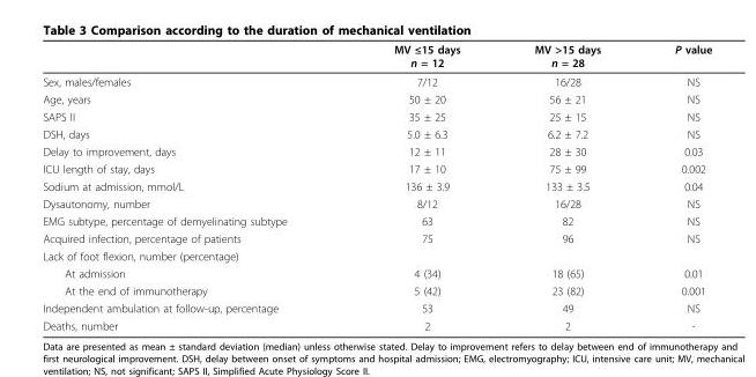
<table><thead><tr><td></td><td>MV ≤15 days n = 12</td><td>MV &gt;15 days n = 28</td><td>P value</td></tr></thead><tbody><tr><td>Sex, males/females</td><td>7/12</td><td>16/28</td><td>NS</td></tr><tr><td>Age, years</td><td>50 ± 20</td><td>56 ± 21</td><td>NS</td></tr><tr><td>SAPS II</td><td>35 ± 25</td><td>25 ± 15</td><td>NS</td></tr><tr><td>DSH, days</td><td>5.0 ± 6.3</td><td>6.2 ± 7.2</td><td>NS</td></tr><tr><td>Delay to improvement, days</td><td>12 ± 11</td><td>28 ± 30</td><td>0.03</td></tr><tr><td>ICU length of stay, days</td><td>17 ± 10</td><td>75 ± 99</td><td>0.002</td></tr><tr><td>Sodium at admission, mmol/L</td><td>136 ± 3.9</td><td>133 ± 3.5</td><td>0.04</td></tr><tr><td>Dysautonomy, number</td><td>8/12</td><td>16/28</td><td>NS</td></tr><tr><td>EMG subtype, percentage of demyelinating subtype</td><td>63</td><td>82</td><td>NS</td></tr><tr><td>Acquired infection, percentage of patients</td><td>75</td><td>96</td><td>NS</td></tr><tr><td colspan="4">Lack of foot flexion, number (percentage)</td></tr><tr><td>At admission</td><td>4 (34)</td><td>18 (65)</td><td>0.01</td></tr><tr><td>At the end of immunotherapy</td><td>5 (42)</td><td>23 (82)</td><td>0.001</td></tr><tr><td>Independent ambulation at follow-up, percentage</td><td>53</td><td>49</td><td>NS</td></tr><tr><td>Deaths, number</td><td>2</td><td>2</td><td>-</td></tr></tbody></table>